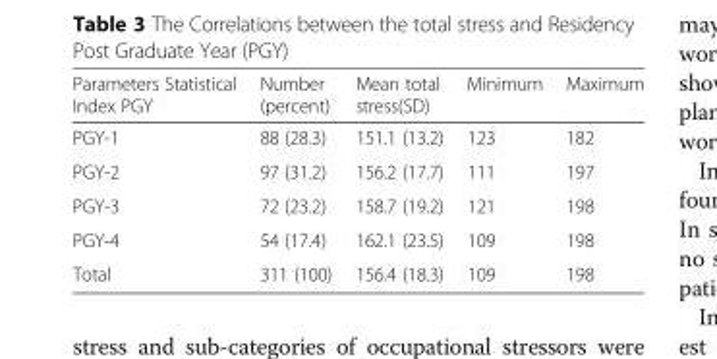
<table><thead><tr><td>Parameters Statistical Index PGY</td><td>Number (percent)</td><td>Mean total stress(SD)</td><td>Minimum</td><td>Maximum</td></tr></thead><tbody><tr><td>PGY-1</td><td>88 (28.3)</td><td>151.1 (13.2)</td><td>123</td><td>182</td></tr><tr><td>PGY-2</td><td>97 (31.2)</td><td>156.2 (17.7)</td><td>111</td><td>197</td></tr><tr><td>PGY-3</td><td>72 (23.2)</td><td>158.7 (19.2)</td><td>121</td><td>198</td></tr><tr><td>PGY-4</td><td>54 (17.4)</td><td>162.1 (23.5)</td><td>109</td><td>198</td></tr><tr><td>Total</td><td>311 (100)</td><td>156.4 (18.3)</td><td>109</td><td>198</td></tr></tbody></table>